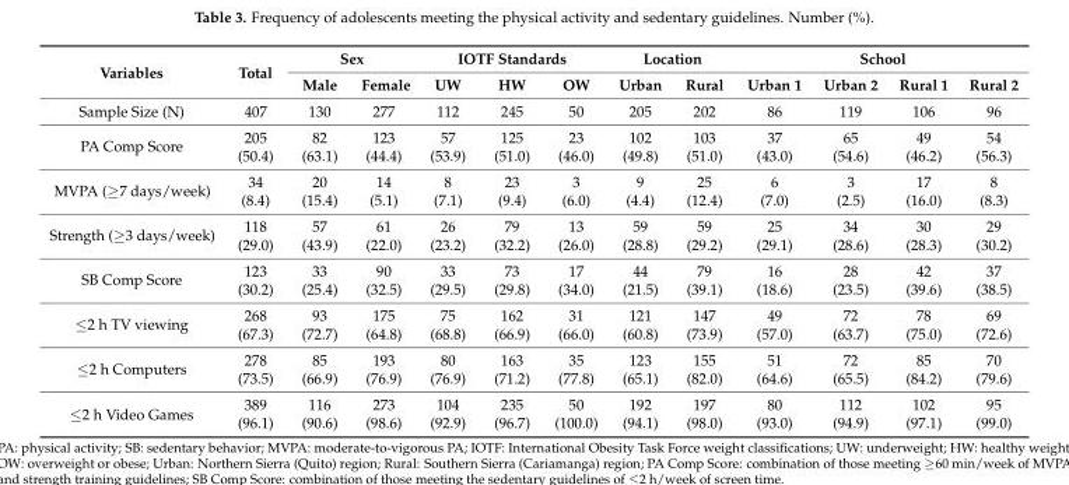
<table><thead><tr><td rowspan="2">Variables</td><td rowspan="2">Total</td><td colspan="2">Sex</td><td colspan="3">IOTF Standards</td><td colspan="2">Location</td><td colspan="4">School</td></tr><tr><td>Male</td><td>Female</td><td>UW</td><td>HW</td><td>OW</td><td>Urban</td><td>Rural</td><td>Urban 1</td><td>Urban 2</td><td>Rural 1</td><td>Rural 2</td></tr></thead><tbody><tr><td>Sample Size (N)</td><td>407</td><td>130</td><td>277</td><td>112</td><td>245</td><td>50</td><td>205</td><td>202</td><td>86</td><td>119</td><td>106</td><td>96</td></tr><tr><td rowspan="2">PA Comp Score</td><td>205</td><td>82</td><td>123</td><td>57</td><td>125</td><td>23</td><td>102</td><td>103</td><td>37</td><td>65</td><td>49</td><td>54</td></tr><tr><td>(50.4)</td><td>(63.1)</td><td>(44.4)</td><td>(53.9)</td><td>(51.0)</td><td>(46.0)</td><td>(49.8)</td><td>(51.0)</td><td>(43.0)</td><td>(54.6)</td><td>(46.2)</td><td>(56.3)</td></tr><tr><td rowspan="2">MVPA (≥7 days/week)</td><td>34</td><td>20</td><td>14</td><td>8</td><td>23</td><td>3</td><td>9</td><td>25</td><td>6</td><td>3</td><td>17</td><td>8</td></tr><tr><td>(8.4)</td><td>(15.4)</td><td>(5.1)</td><td>(7.1)</td><td>(9.4)</td><td>(6.0)</td><td>(4.4)</td><td>(12.4)</td><td>(7.0)</td><td>(2.5)</td><td>(16.0)</td><td>(8.3)</td></tr><tr><td rowspan="2">Strength (≥3 days/week)</td><td>118</td><td>57</td><td>61</td><td>26</td><td>79</td><td>13</td><td>59</td><td>59</td><td>25</td><td>34</td><td>30</td><td>29</td></tr><tr><td>(29.0)</td><td>(43.9)</td><td>(22.0)</td><td>(23.2)</td><td>(32.2)</td><td>(26.0)</td><td>(28.8)</td><td>(29.2)</td><td>(29.1)</td><td>(28.6)</td><td>(28.3)</td><td>(30.2)</td></tr><tr><td rowspan="2">SB Comp Score</td><td>123</td><td>33</td><td>90</td><td>33</td><td>73</td><td>17</td><td>44</td><td>79</td><td>16</td><td>28</td><td>42</td><td>37</td></tr><tr><td>(30.2)</td><td>(25.4)</td><td>(32.5)</td><td>(29.5)</td><td>(29.8)</td><td>(34.0)</td><td>(21.5)</td><td>(39.1)</td><td>(18.6)</td><td>(23.5)</td><td>(39.6)</td><td>(38.5)</td></tr><tr><td rowspan="2">≤2 h TV viewing</td><td>268</td><td>93</td><td>175</td><td>75</td><td>162</td><td>31</td><td>121</td><td>147</td><td>49</td><td>72</td><td>78</td><td>69</td></tr><tr><td>(67.3)</td><td>(72.7)</td><td>(64.8)</td><td>(68.8)</td><td>(66.9)</td><td>(66.0)</td><td>(60.8)</td><td>(73.9)</td><td>(57.0)</td><td>(63.7)</td><td>(75.0)</td><td>(72.6)</td></tr><tr><td rowspan="2">≤2 h Computers</td><td>278</td><td>85</td><td>193</td><td>80</td><td>163</td><td>35</td><td>123</td><td>155</td><td>51</td><td>72</td><td>85</td><td>70</td></tr><tr><td>(73.5)</td><td>(66.9)</td><td>(76.9)</td><td>(76.9)</td><td>(71.2)</td><td>(77.8)</td><td>(65.1)</td><td>(82.0)</td><td>(64.6)</td><td>(65.5)</td><td>(84.2)</td><td>(79.6)</td></tr><tr><td rowspan="2">≤2 h Video Games</td><td>389</td><td>116</td><td>273</td><td>104</td><td>235</td><td>50</td><td>192</td><td>197</td><td>80</td><td>112</td><td>102</td><td>95</td></tr><tr><td>(96.1)</td><td>(90.6)</td><td>(98.6)</td><td>(92.9)</td><td>(96.7)</td><td>(100.0)</td><td>(94.1)</td><td>(98.0)</td><td>(93.0)</td><td>(94.9)</td><td>(97.1)</td><td>(99.0)</td></tr></tbody></table>